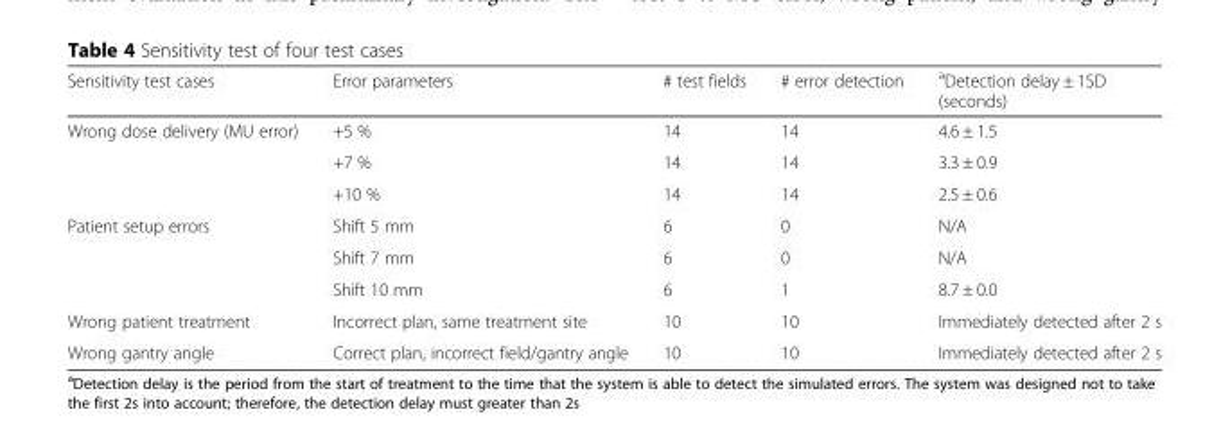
<table><thead><tr><td>Sensitivity test cases</td><td>Error parameters</td><td># test fields</td><td># error detection</td><td><sup>a</sup>Detection delay ± 1SD (seconds)</td></tr></thead><tbody><tr><td rowspan="3">Wrong dose delivery (MU error)</td><td>+5 %</td><td>14</td><td>14</td><td>4.6 ± 1.5</td></tr><tr><td>+7 %</td><td>14</td><td>14</td><td>3.3 ± 0.9</td></tr><tr><td>+10 %</td><td>14</td><td>14</td><td>2.5 ± 0.6</td></tr><tr><td rowspan="3">Patient setup errors</td><td>Shift 5 mm</td><td>6</td><td>0</td><td>N/A</td></tr><tr><td>Shift 7 mm</td><td>6</td><td>0</td><td>N/A</td></tr><tr><td>Shift 10 mm</td><td>6</td><td>1</td><td>8.7 ± 0.0</td></tr><tr><td>Wrong patient treatment</td><td>Incorrect plan, same treatment site</td><td>10</td><td>10</td><td>Immediately detected after 2 s</td></tr><tr><td>Wrong gantry angle</td><td>Correct plan, incorrect field/gantry angle</td><td>10</td><td>10</td><td>Immediately detected after 2 s</td></tr></tbody></table>